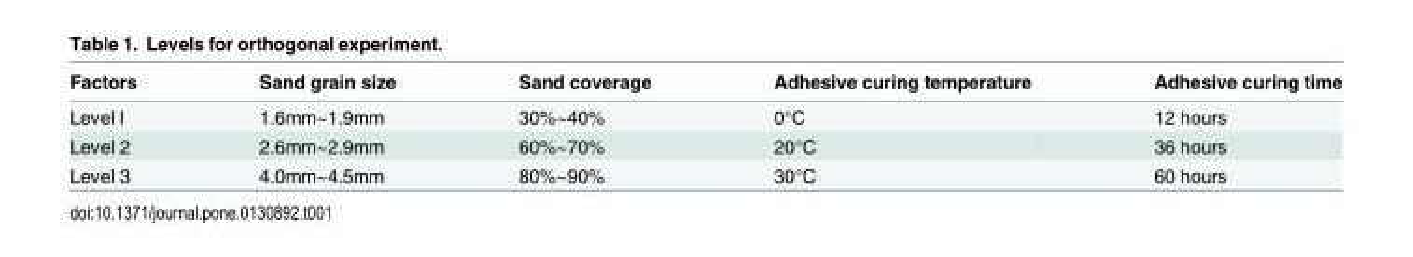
<table><thead><tr><td>Factors</td><td>Sand grain size</td><td>Sand coverage</td><td>Adhesive curing temperature</td><td>Adhesive curing time</td></tr></thead><tbody><tr><td>Level l</td><td>1.6mm~1.9mm</td><td>30%~40%</td><td>0°C</td><td>12 hours</td></tr><tr><td>Level 2</td><td>2.6mm~2.9mm</td><td>60%~70%</td><td>20°C</td><td>36 hours</td></tr><tr><td>Level 3</td><td>4.0mm~4.5mm</td><td>80%~90%</td><td>30°C</td><td>60 hours</td></tr></tbody></table>